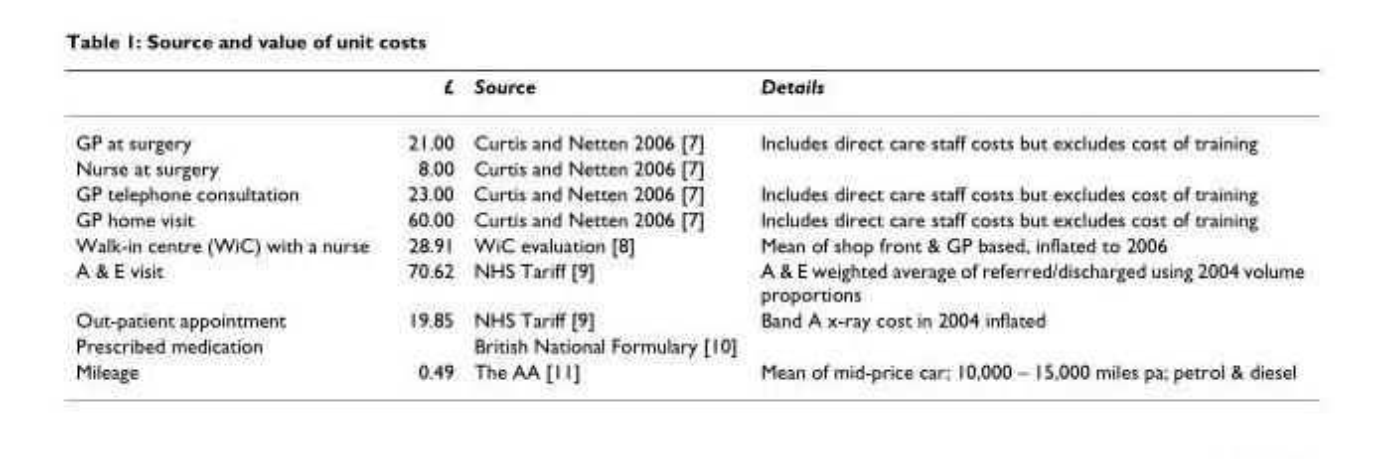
<table><thead><tr><td></td><td>£</td><td>Source</td><td>Details</td></tr></thead><tbody><tr><td>GP at surgery</td><td>21.00</td><td>Curtis and Netten 2006 [7]</td><td>Includes direct care staff costs but excludes cost of training</td></tr><tr><td>Nurse at surgery</td><td>8.00</td><td>Curtis and Netten 2006 [7]</td><td></td></tr><tr><td>GP telephone consultation</td><td>23.00</td><td>Curtis and Netten 2006 [7]</td><td>Includes direct care staff costs but excludes cost of training</td></tr><tr><td>GP home visit</td><td>60.00</td><td>Curtis and Netten 2006 [7]</td><td>Includes direct care staff costs but excludes cost of training</td></tr><tr><td>Walk-in centre (WiC) with a nurse</td><td>28.91</td><td>WiC evaluation [8]</td><td>Mean of shop front &amp; GP based, inflated to 2006</td></tr><tr><td>A &amp; E visit</td><td>70.62</td><td>NHS Tariff [9]</td><td>A &amp; E weighted average of referred/discharged using 2004 volume proportions</td></tr><tr><td>Out-patient appointment</td><td>19.85</td><td>NHS Tariff [9]</td><td>Band A x-ray cost in 2004 inflated</td></tr><tr><td>Prescribed medication</td><td></td><td>British National Formulary [10]</td><td></td></tr><tr><td>Mileage</td><td>0.49</td><td>The AA [11]</td><td>Mean of mid-price car; 10,000 – 15,000 miles pa; petrol &amp; diesel</td></tr></tbody></table>